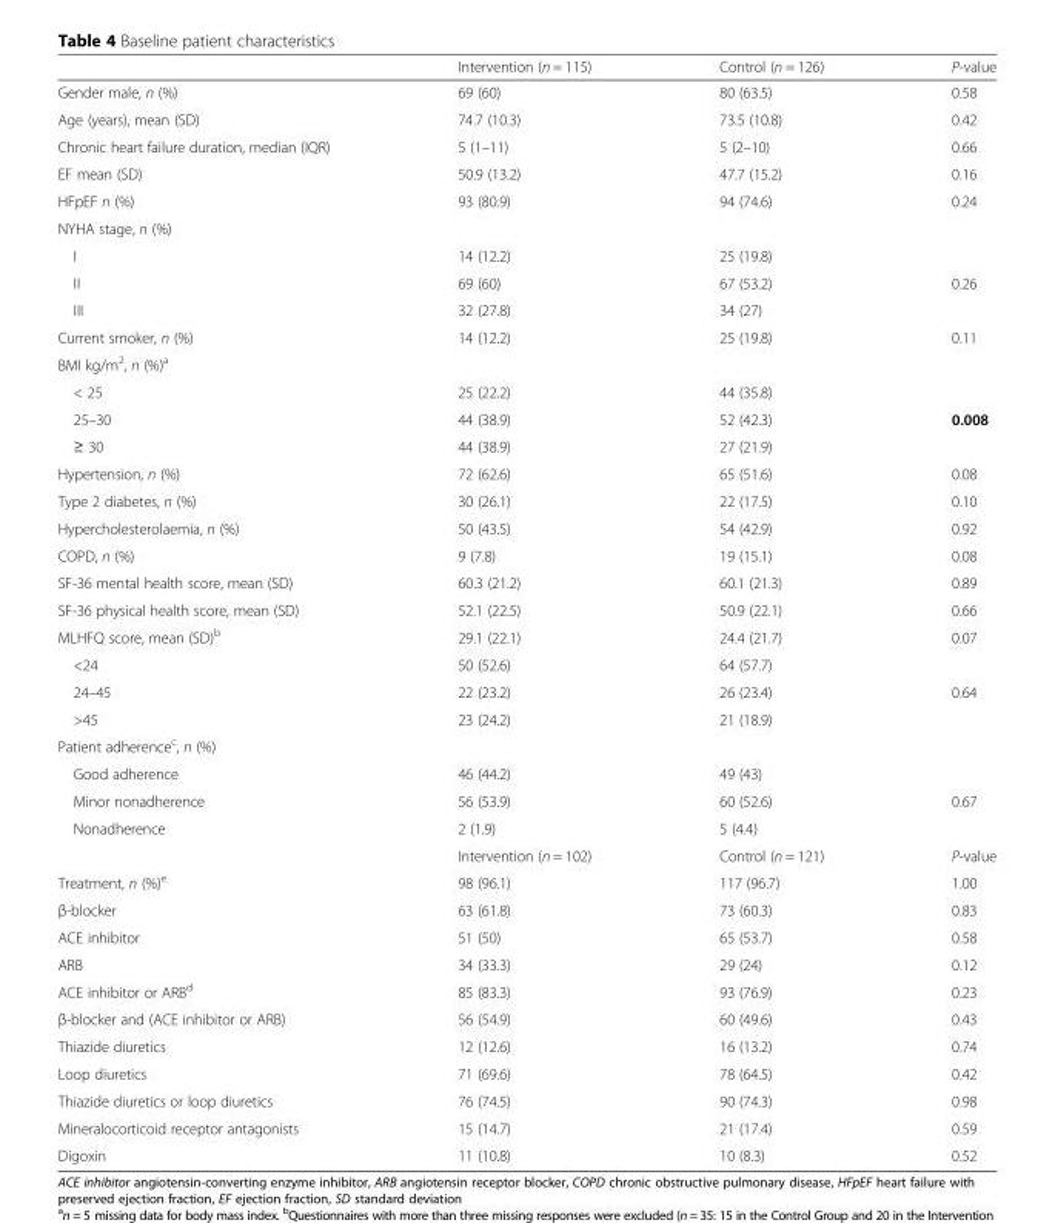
<table><thead><tr><td></td><td>Intervention (n = 115)</td><td>Control (n = 126)</td><td>P-value</td></tr></thead><tbody><tr><td>Gender male, n (%)</td><td>69 (60)</td><td>80 (63.5)</td><td>0.58</td></tr><tr><td>Age (years), mean (SD)</td><td>74.7 (10.3)</td><td>73.5 (10.8)</td><td>0.42</td></tr><tr><td>Chronic heart failure duration, median (IQR)</td><td>5 (1–11)</td><td>5 (2–10)</td><td>0.66</td></tr><tr><td>EF mean (SD)</td><td>50.9 (13.2)</td><td>47.7 (15.2)</td><td>0.16</td></tr><tr><td>HFpEF n (%)</td><td>93 (80.9)</td><td>94 (74.6)</td><td>0.24</td></tr><tr><td colspan="4">NYHA stage, n (%)</td></tr><tr><td>I</td><td>14 (12.2)</td><td>25 (19.8)</td><td></td></tr><tr><td>II</td><td>69 (60)</td><td>67 (53.2)</td><td>0.26</td></tr><tr><td>III</td><td>32 (27.8)</td><td>34 (27)</td><td></td></tr><tr><td>Current smoker, n (%)</td><td>14 (12.2)</td><td>25 (19.8)</td><td>0.11</td></tr><tr><td colspan="4">BMI kg/m<sup>2</sup>, n (%)<sup>a</sup></td></tr><tr><td>&lt; 25</td><td>25 (22.2)</td><td>44 (35.8)</td><td></td></tr><tr><td>25–30</td><td>44 (38.9)</td><td>52 (42.3)</td><td>0.008</td></tr><tr><td>≥ 30</td><td>44 (38.9)</td><td>27 (21.9)</td><td></td></tr><tr><td>Hypertension, n (%)</td><td>72 (62.6)</td><td>65 (51.6)</td><td>0.08</td></tr><tr><td>Type 2 diabetes, n (%)</td><td>30 (26.1)</td><td>22 (17.5)</td><td>0.10</td></tr><tr><td>Hypercholesterolaemia, n (%)</td><td>50 (43.5)</td><td>54 (42.9)</td><td>0.92</td></tr><tr><td>COPD, n (%)</td><td>9 (7.8)</td><td>19 (15.1)</td><td>0.08</td></tr><tr><td>SF-36 mental health score, mean (SD)</td><td>60.3 (21.2)</td><td>60.1 (21.3)</td><td>0.89</td></tr><tr><td>SF-36 physical health score, mean (SD)</td><td>52.1 (22.5)</td><td>50.9 (22.1)</td><td>0.66</td></tr><tr><td>MLHFQ score, mean (SD)<sup>b</sup></td><td>29.1 (22.1)</td><td>24.4 (21.7)</td><td>0.07</td></tr><tr><td>&lt;24</td><td>50 (52.6)</td><td>64 (57.7)</td><td></td></tr><tr><td>24–45</td><td>22 (23.2)</td><td>26 (23.4)</td><td>0.64</td></tr><tr><td>&gt;45</td><td>23 (24.2)</td><td>21 (18.9)</td><td></td></tr><tr><td colspan="4">Patient adherence<sup>c</sup>, n (%)</td></tr><tr><td>Good adherence</td><td>46 (44.2)</td><td>49 (43)</td><td></td></tr><tr><td>Minor nonadherence</td><td>56 (53.9)</td><td>60 (52.6)</td><td>0.67</td></tr><tr><td rowspan="2">Nonadherence</td><td>2 (1.9)</td><td>5 (4.4)</td><td></td></tr><tr><td>Intervention (n = 102)</td><td>Control (n = 121)</td><td>P-value</td></tr><tr><td>Treatment, n (%)<sup>e</sup></td><td>98 (96.1)</td><td>117 (96.7)</td><td>1.00</td></tr><tr><td>β-blocker</td><td>63 (61.8)</td><td>73 (60.3)</td><td>0.83</td></tr><tr><td>ACE inhibitor</td><td>51 (50)</td><td>65 (53.7)</td><td>0.58</td></tr><tr><td>ARB</td><td>34 (33.3)</td><td>29 (24)</td><td>0.12</td></tr><tr><td>ACE inhibitor or ARB<sup>d</sup></td><td>85 (83.3)</td><td>93 (76.9)</td><td>0.23</td></tr><tr><td>β-blocker and (ACE inhibitor or ARB)</td><td>56 (54.9)</td><td>60 (49.6)</td><td>0.43</td></tr><tr><td>Thiazide diuretics</td><td>12 (12.6)</td><td>16 (13.2)</td><td>0.74</td></tr><tr><td>Loop diuretics</td><td>71 (69.6)</td><td>78 (64.5)</td><td>0.42</td></tr><tr><td>Thiazide diuretics or loop diuretics</td><td>76 (74.5)</td><td>90 (74.3)</td><td>0.98</td></tr><tr><td>Mineralocorticoid receptor antagonists</td><td>15 (14.7)</td><td>21 (17.4)</td><td>0.59</td></tr><tr><td>Digoxin</td><td>11 (10.8)</td><td>10 (8.3)</td><td>0.52</td></tr></tbody></table>